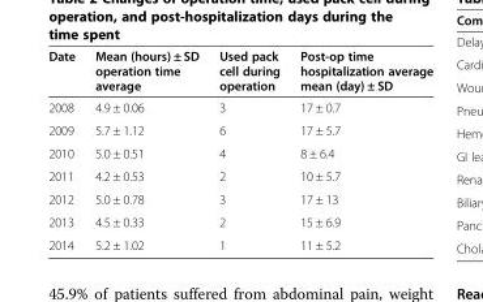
<table><thead><tr><td>Date</td><td>Mean (hours) ± SD operation time average</td><td>Used pack cell during operation</td><td>Post-op time hospitalization average mean (day) ± SD</td></tr></thead><tbody><tr><td>2008</td><td>4.9 ± 0.06</td><td>3</td><td>17 ± 0.7</td></tr><tr><td>2009</td><td>5.7 ± 1.12</td><td>6</td><td>17 ± 5.7</td></tr><tr><td>2010</td><td>5.0 ± 0.51</td><td>4</td><td>8 ± 6.4</td></tr><tr><td>2011</td><td>4.2 ± 0.53</td><td>2</td><td>10 ± 5.7</td></tr><tr><td>2012</td><td>5.0 ± 0.78</td><td>3</td><td>17 ± 13</td></tr><tr><td>2013</td><td>4.5 ± 0.33</td><td>2</td><td>15 ± 6.9</td></tr><tr><td>2014</td><td>5.2 ± 1.02</td><td>1</td><td>11 ± 5.2</td></tr></tbody></table>